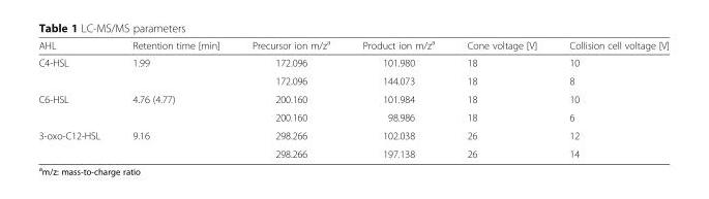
<table><thead><tr><td>AHL</td><td>Retention time [min]</td><td>Precursor ion m/z<sup>a</sup></td><td>Product ion m/z<sup>a</sup></td><td>Cone voltage [V]</td><td>Collision cell voltage [V]</td></tr></thead><tbody><tr><td rowspan="2">C4-HSL</td><td>1.99</td><td>172.096</td><td>101.980</td><td>18</td><td>10</td></tr><tr><td></td><td>172.096</td><td>144.073</td><td>18</td><td>8</td></tr><tr><td rowspan="2">C6-HSL</td><td>4.76 (4.77)</td><td>200.160</td><td>101.984</td><td>18</td><td>10</td></tr><tr><td></td><td>200.160</td><td>98.986</td><td>18</td><td>6</td></tr><tr><td rowspan="2">3-oxo-C12-HSL</td><td>9.16</td><td>298.266</td><td>102.038</td><td>26</td><td>12</td></tr><tr><td></td><td>298.266</td><td>197.138</td><td>26</td><td>14</td></tr></tbody></table>